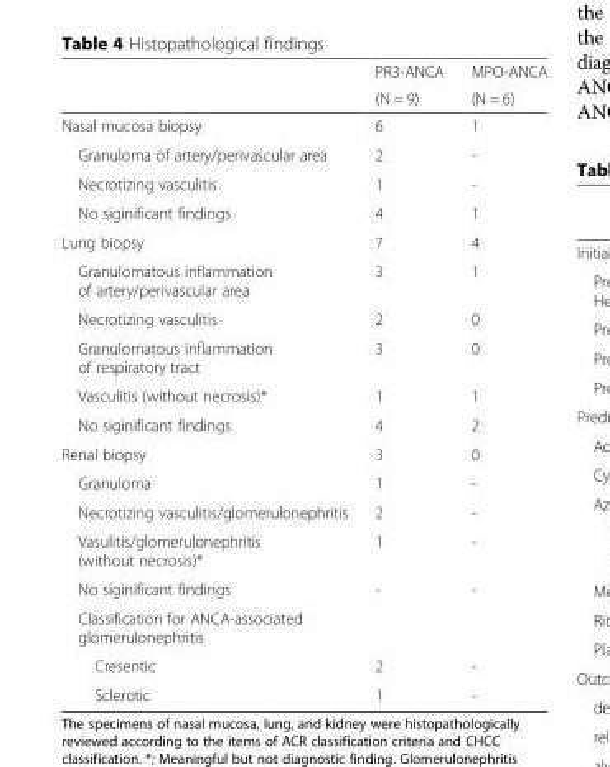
<table><thead><tr><td rowspan="2"></td><td rowspan="2">PR3-ANCA (N = 9)</td><td rowspan="2">MPO-ANCA (N = 6)</td></tr><tr></tr></thead><tbody><tr><td>Nasal mucosa biopsy</td><td>6</td><td>1</td></tr><tr><td>Granuloma of artery/perivascular area</td><td>2</td><td>-</td></tr><tr><td>Necrotizing vasculitis</td><td>1</td><td>-</td></tr><tr><td>No siginificant findings</td><td>4</td><td>1</td></tr><tr><td>Lung biopsy</td><td>7</td><td>4</td></tr><tr><td>Granulomatous inflammation of artery/perivascular area</td><td>3</td><td>1</td></tr><tr><td>Necrotizing vasculitis</td><td>2</td><td>0</td></tr><tr><td>Granulomatous inflammation of respiratory tract</td><td>3</td><td>0</td></tr><tr><td>Vasculitis (without necrosis)*</td><td>1</td><td>1</td></tr><tr><td>No siginificant findings</td><td>4</td><td>2</td></tr><tr><td>Renal biopsy</td><td>3</td><td>0</td></tr><tr><td>Granuloma</td><td>1</td><td>-</td></tr><tr><td>Necrotizing vasculitis/glomerulonephritis</td><td>2</td><td>-</td></tr><tr><td>Vasulitis/glomerulonephritis (without necrosis)*</td><td>1</td><td>-</td></tr><tr><td>No siginificant findings</td><td>-</td><td>-</td></tr><tr><td colspan="3">Classification for ANCA-associated glomerulonephritis</td></tr><tr><td>Cresentic</td><td>2</td><td>-</td></tr><tr><td>Sclerotic</td><td>1</td><td>-</td></tr></tbody></table>